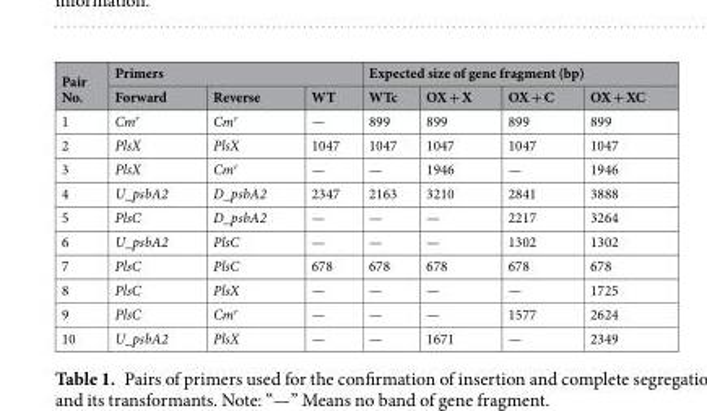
<table><thead><tr><td rowspan="2">Pair No.</td><td colspan="3">Primers</td><td colspan="4">Expected size of gene fragment (bp)</td></tr><tr><td>Forward</td><td>Reverse</td><td>WT</td><td>WTc</td><td>OX + X</td><td>OX + C</td><td>OX + XC</td></tr></thead><tbody><tr><td>1</td><td>Cm<sup>r</sup></td><td>Cm<sup>r</sup></td><td>—</td><td>899</td><td>899</td><td>899</td><td>899</td></tr><tr><td>2</td><td>PlsX</td><td>PlsX</td><td>1047</td><td>1047</td><td>1047</td><td>1047</td><td>1047</td></tr><tr><td>3</td><td>PlsX</td><td>Cm<sup>r</sup></td><td>—</td><td>—</td><td>1946</td><td>—</td><td>1946</td></tr><tr><td>4</td><td>U_psbA2</td><td>D_psbA2</td><td>2347</td><td>2163</td><td>3210</td><td>2841</td><td>3888</td></tr><tr><td>5</td><td>PlsC</td><td>D_psbA2</td><td>—</td><td>—</td><td>—</td><td>2217</td><td>3264</td></tr><tr><td>6</td><td>U_psbA2</td><td>PlsC</td><td>—</td><td>—</td><td>—</td><td>1302</td><td>1302</td></tr><tr><td>7</td><td>PlsC</td><td>PlsC</td><td>678</td><td>678</td><td>678</td><td>678</td><td>678</td></tr><tr><td>8</td><td>PlsC</td><td>PlsX</td><td>—</td><td>—</td><td>—</td><td>—</td><td>1725</td></tr><tr><td>9</td><td>PlsC</td><td>Cm<sup>r</sup></td><td>—</td><td>—</td><td>—</td><td>1577</td><td>2624</td></tr><tr><td>10</td><td>U_psbA2</td><td>PlsX</td><td>—</td><td>—</td><td>1671</td><td>—</td><td>2349</td></tr></tbody></table>